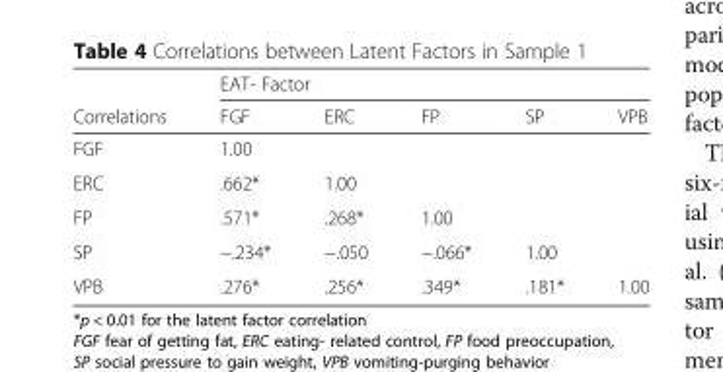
<table><thead><tr><td rowspan="2">Correlations</td><td colspan="5">EAT- Factor</td></tr><tr><td>FGF</td><td>ERC</td><td>FP</td><td>SP</td><td>VPB</td></tr></thead><tbody><tr><td>FGF</td><td>1.00</td><td></td><td></td><td></td><td></td></tr><tr><td>ERC</td><td>.662*</td><td>1.00</td><td></td><td></td><td></td></tr><tr><td>FP</td><td>.571*</td><td>.268*</td><td>1.00</td><td></td><td></td></tr><tr><td>SP</td><td>−.234*</td><td>−.050</td><td>−.066*</td><td>1.00</td><td></td></tr><tr><td>VPB</td><td>.276*</td><td>.256*</td><td>.349*</td><td>.181*</td><td>1.00</td></tr></tbody></table>